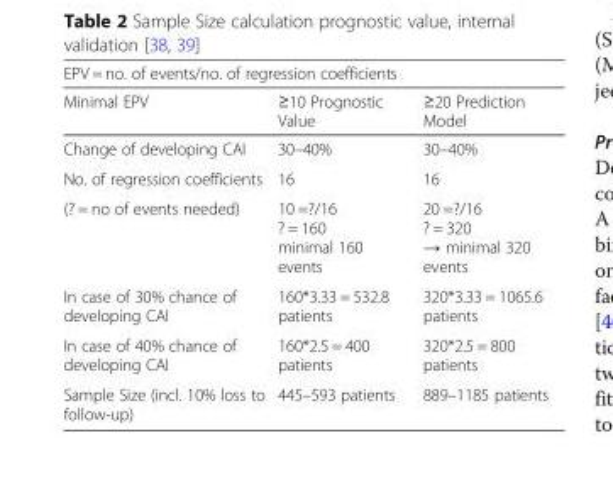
<table><thead><tr><td colspan="3">EPV = no. of events/no. of regression coefficients</td></tr><tr><td>Minimal EPV</td><td>≥10 Prognostic Value</td><td>≥20 Prediction Model</td></tr></thead><tbody><tr><td>Change of developing CAI</td><td>30–40%</td><td>30–40%</td></tr><tr><td>No. of regression coefficients</td><td>16</td><td>16</td></tr><tr><td>(? = no of events needed)</td><td>10 =?/16 ? = 160 minimal 160 events</td><td>20 =?/16 ? = 320 → minimal 320 events</td></tr><tr><td>In case of 30% chance of developing CAI</td><td>160*3.33 = 532.8 patients</td><td>320*3.33 = 1065.6 patients</td></tr><tr><td>In case of 40% chance of developing CAI</td><td>160*2.5 = 400 patients</td><td>320*2.5 = 800 patients</td></tr><tr><td>Sample Size (incl. 10% loss to follow-up)</td><td>445–593 patients</td><td>889–1185 patients</td></tr></tbody></table>